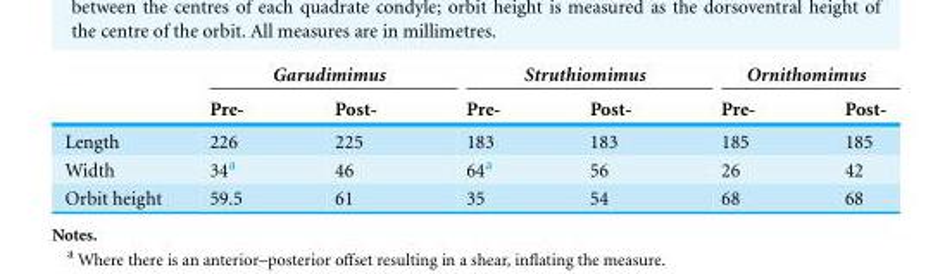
<table><thead><tr><td rowspan="2"></td><td colspan="2">Garudimimus</td><td colspan="2">Struthiomimus</td><td colspan="2">Ornithomimus</td></tr><tr><td>Pre-</td><td>Post-</td><td>Pre-</td><td>Post-</td><td>Pre-</td><td>Post-</td></tr></thead><tbody><tr><td>Length</td><td>226</td><td>225</td><td>183</td><td>183</td><td>185</td><td>185</td></tr><tr><td>Width</td><td>34<sup>a</sup></td><td>46</td><td>64<sup>a</sup></td><td>56</td><td>26</td><td>42</td></tr><tr><td>Orbit height</td><td>59.5</td><td>61</td><td>35</td><td>54</td><td>68</td><td>68</td></tr></tbody></table>